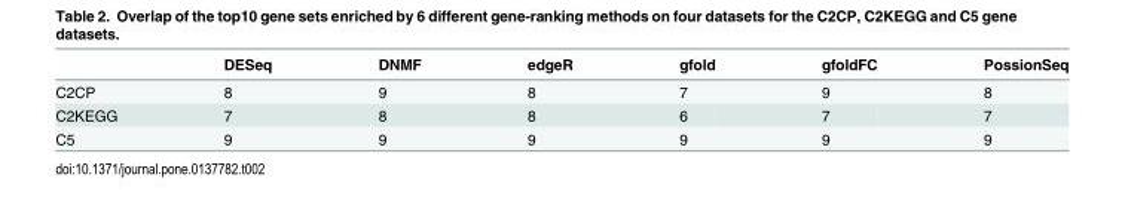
<table><thead><tr><td></td><td>DESeq</td><td>DNMF</td><td>edgeR</td><td>gfold</td><td>gfoldFC</td><td>PossionSeq</td></tr></thead><tbody><tr><td>C2CP</td><td>8</td><td>9</td><td>8</td><td>7</td><td>9</td><td>8</td></tr><tr><td>C2KEGG</td><td>7</td><td>8</td><td>8</td><td>6</td><td>7</td><td>7</td></tr><tr><td>C5</td><td>9</td><td>9</td><td>9</td><td>9</td><td>9</td><td>9</td></tr></tbody></table>